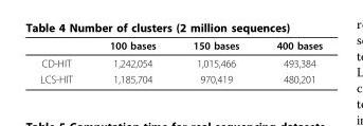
<table><thead><tr><td></td><td>100 bases</td><td>150 bases</td><td>400 bases</td></tr></thead><tbody><tr><td>CD-HIT</td><td>1,242,054</td><td>1,015,466</td><td>493,384</td></tr><tr><td>LCS-HIT</td><td>1,185,704</td><td>970,419</td><td>480,201</td></tr></tbody></table>